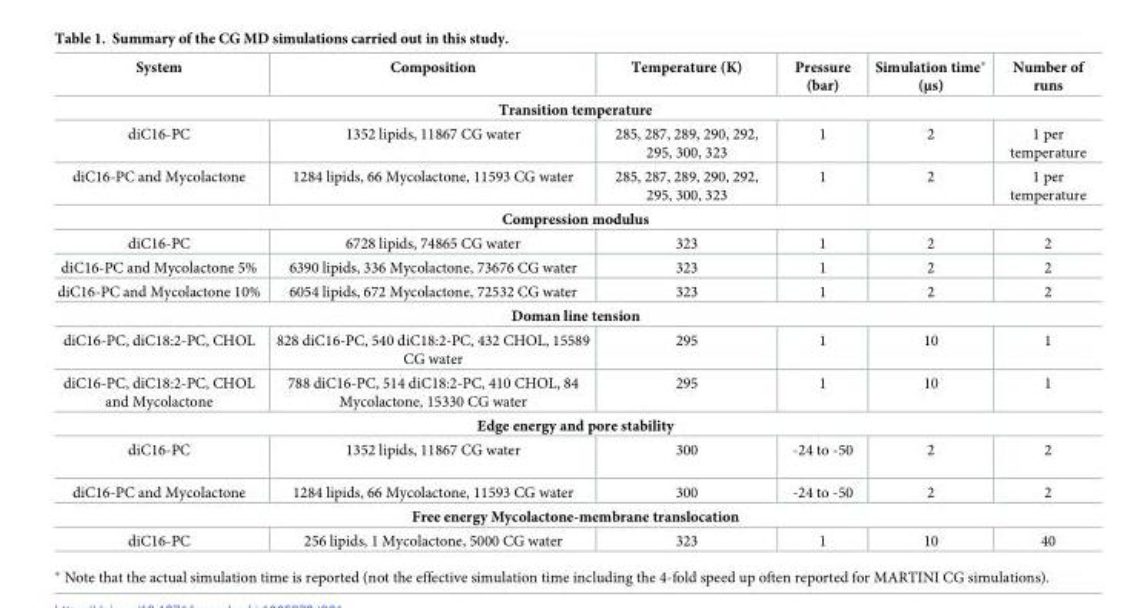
<table><thead><tr><td>System</td><td>Composition</td><td>Temperature (K)</td><td>Pressure (bar)</td><td>Simulation time* (μs)</td><td>Number of runs</td></tr></thead><tbody><tr><td colspan="6">Transition temperature</td></tr><tr><td>diC16-PC</td><td>1352 lipids, 11867 CG water</td><td>285, 287, 289, 290, 292, 295, 300, 323</td><td>1</td><td>2</td><td>1 per temperature</td></tr><tr><td>diC16-PC and Mycolactone</td><td>1284 lipids, 66 Mycolactone, 11593 CG water</td><td>285, 287, 289, 290, 292, 295, 300, 323</td><td>1</td><td>2</td><td>1 per temperature</td></tr><tr><td colspan="6">Compression modulus</td></tr><tr><td>diC16-PC</td><td>6728 lipids, 74865 CG water</td><td>323</td><td>1</td><td>2</td><td>2</td></tr><tr><td>diC16-PC and Mycolactone 5%</td><td>6390 lipids, 336 Mycolactone, 73676 CG water</td><td>323</td><td>1</td><td>2</td><td>2</td></tr><tr><td>diC16-PC and Mycolactone 10%</td><td>6054 lipids, 672 Mycolactone, 72532 CG water</td><td>323</td><td>1</td><td>2</td><td>2</td></tr><tr><td colspan="6">Doman line tension</td></tr><tr><td>diC16-PC, diC18:2-PC, CHOL</td><td>828 diC16-PC, 540 diC18:2-PC, 432 CHOL, 15589 CG water</td><td>295</td><td>1</td><td>10</td><td>1</td></tr><tr><td>diC16-PC, diC18:2-PC, CHOL and Mycolactone</td><td>788 diC16-PC, 514 diC18:2-PC, 410 CHOL, 84 Mycolactone, 15330 CG water</td><td>295</td><td>1</td><td>10</td><td>1</td></tr><tr><td colspan="6">Edge energy and pore stability</td></tr><tr><td>diC16-PC</td><td>1352 lipids, 11867 CG water</td><td>300</td><td>-24 to -50</td><td>2</td><td>2</td></tr><tr><td>diC16-PC and Mycolactone</td><td>1284 lipids, 66 Mycolactone, 11593 CG water</td><td>300</td><td>-24 to -50</td><td>2</td><td>2</td></tr><tr><td colspan="6">Free energy Mycolactone-membrane translocation</td></tr><tr><td>diC16-PC</td><td>256 lipids, 1 Mycolactone, 5000 CG water</td><td>323</td><td>1</td><td>10</td><td>40</td></tr></tbody></table>